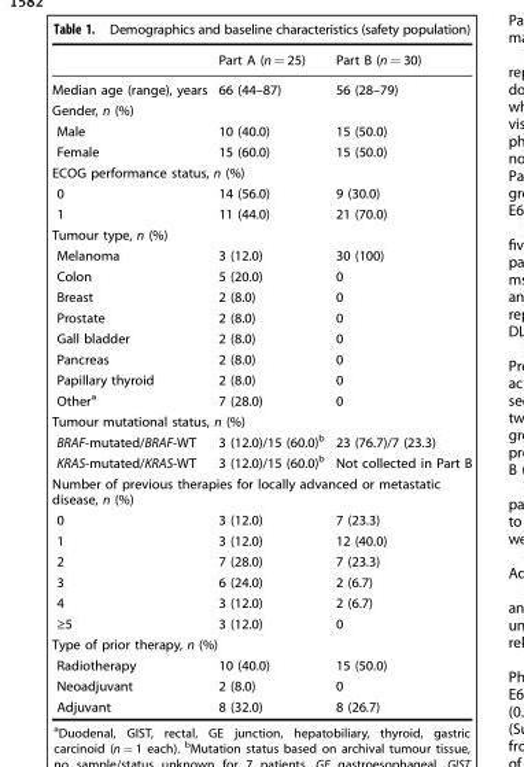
<table><thead><tr><td></td><td>Part A (n = 25)</td><td>Part B (n = 30)</td></tr></thead><tbody><tr><td>Median age (range), years</td><td>66 (44–87)</td><td>56 (28–79)</td></tr><tr><td colspan="3">Gender, n (%)</td></tr><tr><td>Male</td><td>10 (40.0)</td><td>15 (50.0)</td></tr><tr><td>Female</td><td>15 (60.0)</td><td>15 (50.0)</td></tr><tr><td colspan="3">ECOG performance status, n (%)</td></tr><tr><td>0</td><td>14 (56.0)</td><td>9 (30.0)</td></tr><tr><td>1</td><td>11 (44.0)</td><td>21 (70.0)</td></tr><tr><td colspan="3">Tumour type, n (%)</td></tr><tr><td>Melanoma</td><td>3 (12.0)</td><td>30 (100)</td></tr><tr><td>Colon</td><td>5 (20.0)</td><td>0</td></tr><tr><td>Breast</td><td>2 (8.0)</td><td>0</td></tr><tr><td>Prostate</td><td>2 (8.0)</td><td>0</td></tr><tr><td>Gall bladder</td><td>2 (8.0)</td><td>0</td></tr><tr><td>Pancreas</td><td>2 (8.0)</td><td>0</td></tr><tr><td>Papillary thyroid</td><td>2 (8.0)</td><td>0</td></tr><tr><td>Other<sup>a</sup></td><td>7 (28.0)</td><td>0</td></tr><tr><td colspan="3">Tumour mutational status, n (%)</td></tr><tr><td>BRAF-mutated/BRAF-WT</td><td>3 (12.0)/15 (60.0)<sup>b</sup></td><td>23 (76.7)/7 (23.3)</td></tr><tr><td>KRAS-mutated/KRAS-WT</td><td>3 (12.0)/15 (60.0)<sup>b</sup></td><td>Not collected in Part B</td></tr><tr><td colspan="3">Number of previous therapies for locally advanced or metastatic disease, n (%)</td></tr><tr><td>0</td><td>3 (12.0)</td><td>7 (23.3)</td></tr><tr><td>1</td><td>3 (12.0)</td><td>12 (40.0)</td></tr><tr><td>2</td><td>7 (28.0)</td><td>7 (23.3)</td></tr><tr><td>3</td><td>6 (24.0)</td><td>2 (6.7)</td></tr><tr><td>4</td><td>3 (12.0)</td><td>2 (6.7)</td></tr><tr><td>≥5</td><td>3 (12.0)</td><td>0</td></tr><tr><td colspan="3">Type of prior therapy, n (%)</td></tr><tr><td>Radiotherapy</td><td>10 (40.0)</td><td>15 (50.0)</td></tr><tr><td>Neoadjuvant</td><td>2 (8.0)</td><td>0</td></tr><tr><td>Adjuvant</td><td>8 (32.0)</td><td>8 (26.7)</td></tr></tbody></table>